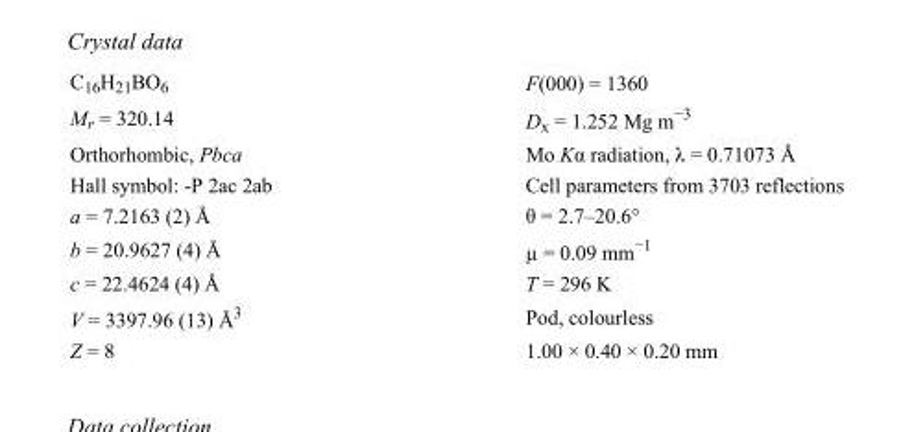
<table><tbody><tr><td>C<sub>16</sub>H<sub>21</sub>BO<sub>6</sub></td><td>F(000) = 1360</td></tr><tr><td>M<sub>r</sub> = 320.14</td><td>D<sub>x</sub> = 1.252 Mg m<sup>−3</sup></td></tr><tr><td>Orthorhombic, Pbca</td><td>Mo Kα radiation, λ = 0.71073 Å</td></tr><tr><td>Hall symbol: -P 2ac 2ab</td><td>Cell parameters from 3703 reflections</td></tr><tr><td>a = 7.2163 (2) Å</td><td>θ = 2.7–20.6°</td></tr><tr><td>b = 20.9627 (4) Å</td><td>µ = 0.09 mm<sup>−1</sup></td></tr><tr><td>c = 22.4624 (4) Å</td><td>T = 296 K</td></tr><tr><td>V = 3397.96 (13) Å<sup>3</sup></td><td>Pod, colourless</td></tr><tr><td>Z = 8</td><td>1.00 × 0.40 × 0.20 mm</td></tr></tbody></table>